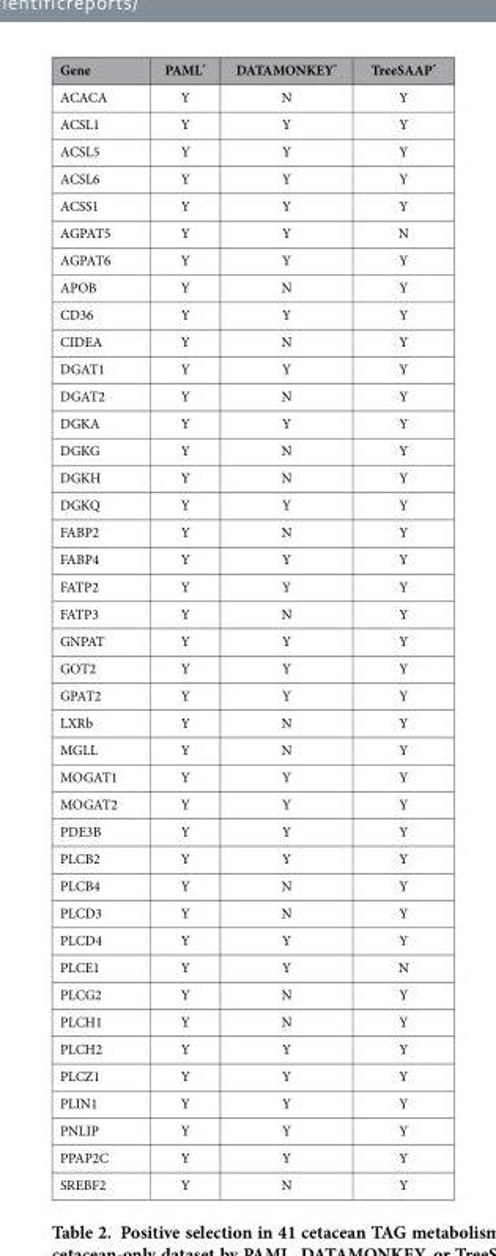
<table><thead><tr><td>Gene</td><td>PAML*</td><td>DATAMONKEY*</td><td>TreeSAAP*</td></tr></thead><tbody><tr><td>ACACA</td><td>Y</td><td>N</td><td>Y</td></tr><tr><td>ACSL1</td><td>Y</td><td>Y</td><td>Y</td></tr><tr><td>ACSL5</td><td>Y</td><td>Y</td><td>Y</td></tr><tr><td>ACSL6</td><td>Y</td><td>Y</td><td>Y</td></tr><tr><td>ACSS1</td><td>Y</td><td>Y</td><td>Y</td></tr><tr><td>AGPAT5</td><td>Y</td><td>Y</td><td>N</td></tr><tr><td>AGPAT6</td><td>Y</td><td>Y</td><td>Y</td></tr><tr><td>APOB</td><td>Y</td><td>N</td><td>Y</td></tr><tr><td>CD36</td><td>Y</td><td>Y</td><td>Y</td></tr><tr><td>CIDEA</td><td>Y</td><td>N</td><td>Y</td></tr><tr><td>DGAT1</td><td>Y</td><td>Y</td><td>Y</td></tr><tr><td>DGAT2</td><td>Y</td><td>N</td><td>Y</td></tr><tr><td>DGKA</td><td>Y</td><td>Y</td><td>Y</td></tr><tr><td>DGKG</td><td>Y</td><td>N</td><td>Y</td></tr><tr><td>DGKH</td><td>Y</td><td>N</td><td>Y</td></tr><tr><td>DGKQ</td><td>Y</td><td>Y</td><td>Y</td></tr><tr><td>FABP2</td><td>Y</td><td>N</td><td>Y</td></tr><tr><td>FABP4</td><td>Y</td><td>Y</td><td>Y</td></tr><tr><td>FATP2</td><td>Y</td><td>Y</td><td>Y</td></tr><tr><td>FATP3</td><td>Y</td><td>N</td><td>Y</td></tr><tr><td>GNPAT</td><td>Y</td><td>Y</td><td>Y</td></tr><tr><td>GOT2</td><td>Y</td><td>Y</td><td>Y</td></tr><tr><td>GPAT2</td><td>Y</td><td>Y</td><td>Y</td></tr><tr><td>LXRb</td><td>Y</td><td>N</td><td>Y</td></tr><tr><td>MGLL</td><td>Y</td><td>N</td><td>Y</td></tr><tr><td>MOGAT1</td><td>Y</td><td>Y</td><td>Y</td></tr><tr><td>MOGAT2</td><td>Y</td><td>Y</td><td>Y</td></tr><tr><td>PDE3B</td><td>Y</td><td>Y</td><td>Y</td></tr><tr><td>PLCB2</td><td>Y</td><td>Y</td><td>Y</td></tr><tr><td>PLCB4</td><td>Y</td><td>N</td><td>Y</td></tr><tr><td>PLCD3</td><td>Y</td><td>N</td><td>Y</td></tr><tr><td>PLCD4</td><td>Y</td><td>Y</td><td>Y</td></tr><tr><td>PLCE1</td><td>Y</td><td>Y</td><td>N</td></tr><tr><td>PLCG2</td><td>Y</td><td>N</td><td>Y</td></tr><tr><td>PLCH1</td><td>Y</td><td>N</td><td>Y</td></tr><tr><td>PLCH2</td><td>Y</td><td>Y</td><td>Y</td></tr><tr><td>PLCZ1</td><td>Y</td><td>Y</td><td>Y</td></tr><tr><td>PLIN1</td><td>Y</td><td>Y</td><td>Y</td></tr><tr><td>PNLIP</td><td>Y</td><td>Y</td><td>Y</td></tr><tr><td>PPAP2C</td><td>Y</td><td>Y</td><td>Y</td></tr><tr><td>SREBF2</td><td>Y</td><td>N</td><td>Y</td></tr></tbody></table>